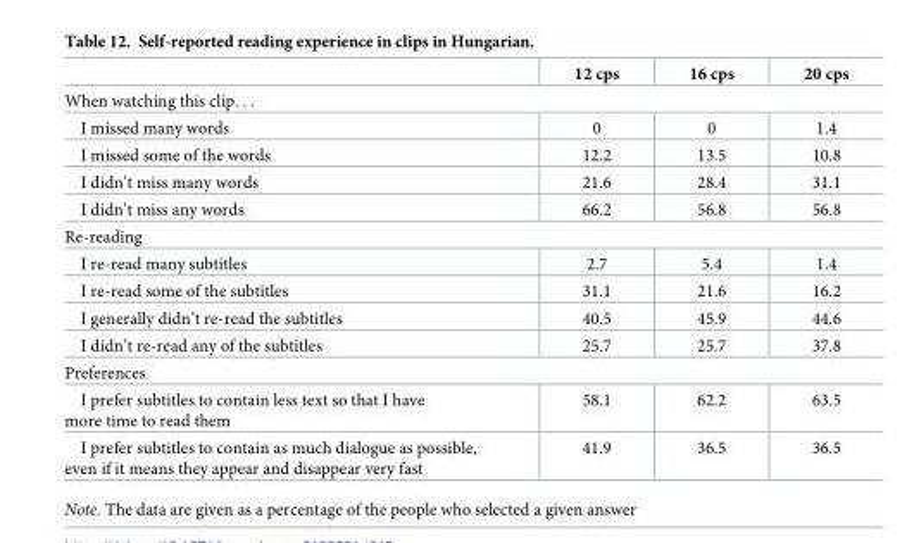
<table><thead><tr><td></td><td>12 cps</td><td>16 cps</td><td>20 cps</td></tr></thead><tbody><tr><td colspan="4">When watching this clip. . .</td></tr><tr><td>I missed many words</td><td>0</td><td>0</td><td>1.4</td></tr><tr><td>I missed some of the words</td><td>12.2</td><td>13.5</td><td>10.8</td></tr><tr><td>I didn’t miss many words</td><td>21.6</td><td>28.4</td><td>31.1</td></tr><tr><td>I didn’t miss any words</td><td>66.2</td><td>56.8</td><td>56.8</td></tr><tr><td colspan="4">Re-reading</td></tr><tr><td>I re-read many subtitles</td><td>2.7</td><td>5.4</td><td>1.4</td></tr><tr><td>I re-read some of the subtitles</td><td>31.1</td><td>21.6</td><td>16.2</td></tr><tr><td>I generally didn’t re-read the subtitles</td><td>40.5</td><td>45.9</td><td>44.6</td></tr><tr><td>I didn’t re-read any of the subtitles</td><td>25.7</td><td>25.7</td><td>37.8</td></tr><tr><td colspan="4">Preferences</td></tr><tr><td>I prefer subtitles to contain less text so that I have more time to read them</td><td>58.1</td><td>62.2</td><td>63.5</td></tr><tr><td>I prefer subtitles to contain as much dialogue as possible, even if it means they appear and disappear very fast</td><td>41.9</td><td>36.5</td><td>36.5</td></tr></tbody></table>